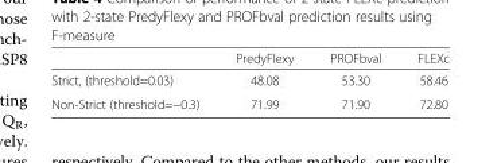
<table><thead><tr><td></td><td>PredyFlexy</td><td>PROFbval</td><td>FLEXc</td></tr></thead><tbody><tr><td>Strict, (threshold=0.03)</td><td>48.08</td><td>53.30</td><td>58.46</td></tr><tr><td>Non-Strict (threshold=−0.3)</td><td>71.99</td><td>71.90</td><td>72.80</td></tr></tbody></table>